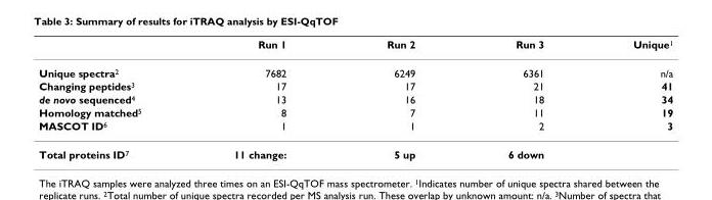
<table><thead><tr><td></td><td>Run 1</td><td>Run 2</td><td>Run 3</td><td>Unique<sup>1</sup></td></tr></thead><tbody><tr><td>Unique spectra<sup>2</sup></td><td>7682</td><td>6249</td><td>6361</td><td>n/a</td></tr><tr><td>Changing peptides<sup>3</sup></td><td>17</td><td>17</td><td>21</td><td>41</td></tr><tr><td>de novo sequenced<sup>4</sup></td><td>13</td><td>16</td><td>18</td><td>34</td></tr><tr><td>Homology matched<sup>5</sup></td><td>8</td><td>7</td><td>11</td><td>19</td></tr><tr><td>MASCOT ID<sup>6</sup></td><td>1</td><td>1</td><td>2</td><td>3</td></tr><tr><td>Total proteins ID<sup>7</sup></td><td>11 change:</td><td>5 up</td><td>6 down</td><td></td></tr></tbody></table>